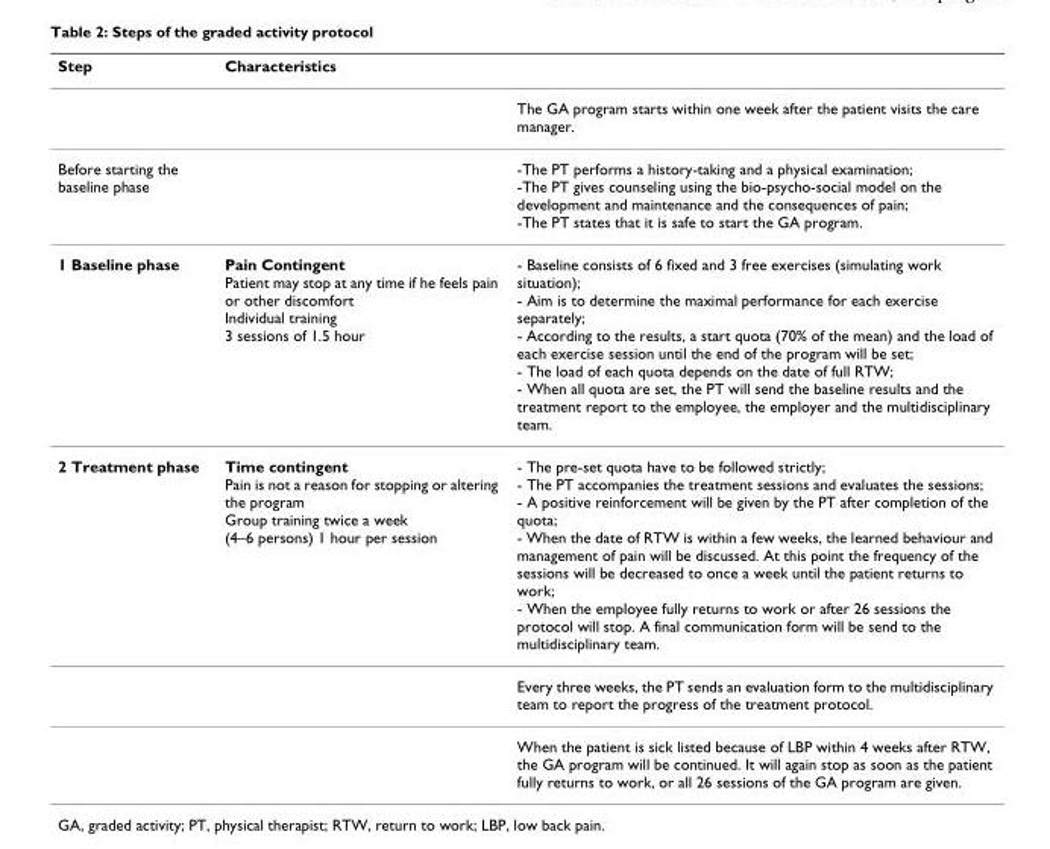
<table><thead><tr><td>Step</td><td>Characteristics</td><td></td></tr></thead><tbody><tr><td></td><td></td><td>The GA program starts within one week after the patient visits the care manager.</td></tr><tr><td>Before starting the baseline phase</td><td></td><td>-The PT performs a history-taking and a physical examination; -The PT gives counseling using the bio-psycho-social model on the development and maintenance and the consequences of pain; -The PT states that it is safe to start the GA program.</td></tr><tr><td>1 Baseline phase</td><td>Pain Contingent Patient may stop at any time if he feels pain or other discomfort Individual training 3 sessions of 1.5 hour</td><td>- Baseline consists of 6 fixed and 3 free exercises (simulating work situation); - Aim is to determine the maximal performance for each exercise separately; - According to the results, a start quota (70% of the mean) and the load of each exercise session until the end of the program will be set; - The load of each quota depends on the date of full RTW; - When all quota are set, the PT will send the baseline results and the treatment report to the employee, the employer and the multidisciplinary team.</td></tr><tr><td rowspan="3">2 Treatment phase</td><td>Time contingent Pain is not a reason for stopping or altering the program Group training twice a week (4–6 persons) 1 hour per session</td><td>- The pre-set quota have to be followed strictly; - The PT accompanies the treatment sessions and evaluates the sessions; - A positive reinforcement will be given by the PT after completion of the quota; - When the date of RTW is within a few weeks, the learned behaviour and management of pain will be discussed. At this point the frequency of the sessions will be decreased to once a week until the patient returns to work; - When the employee fully returns to work or after 26 sessions the protocol will stop. A final communication form will be send to the multidisciplinary team.</td></tr><tr><td></td><td>Every three weeks, the PT sends an evaluation form to the multidisciplinary team to report the progress of the treatment protocol.</td></tr><tr><td></td><td>When the patient is sick listed because of LBP within 4 weeks after RTW, the GA program will be continued. It will again stop as soon as the patient fully returns to work, or all 26 sessions of the GA program are given.</td></tr></tbody></table>